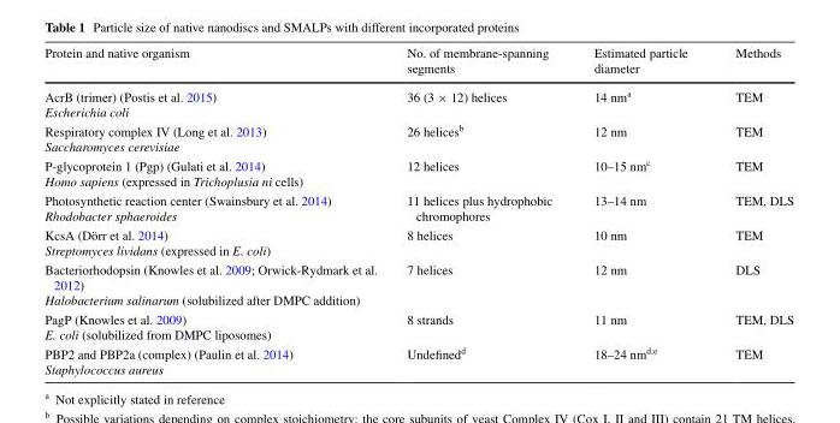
<table><thead><tr><td>Protein and native organism</td><td>No. of membrane-spanning segments</td><td>Estimated particle diameter</td><td>Methods</td></tr></thead><tbody><tr><td>AcrB (trimer) (Postis et al. 2015) Escherichia coli</td><td>36 (3 × 12) helices</td><td>14 nm<sup>a</sup></td><td>TEM</td></tr><tr><td>Respiratory complex IV (Long et al. 2013) Saccharomyces cerevisiae</td><td>26 helices<sup>b</sup></td><td>12 nm</td><td>TEM</td></tr><tr><td>P-glycoprotein 1 (Pgp) (Gulati et al. 2014) Homo sapiens (expressed in Trichoplusia ni cells)</td><td>12 helices</td><td>10–15 nm<sup>c</sup></td><td>TEM</td></tr><tr><td>Photosynthetic reaction center (Swainsbury et al. 2014) Rhodobacter sphaeroides</td><td>11 helices plus hydrophobic chromophores</td><td>13–14 nm</td><td>TEM, DLS</td></tr><tr><td>KcsA (Dörr et al. 2014) Streptomyces lividans (expressed in E. coli)</td><td>8 helices</td><td>10 nm</td><td>TEM</td></tr><tr><td>Bacteriorhodopsin (Knowles et al. 2009; Orwick-Rydmark et al. 2012) Halobacterium salinarum (solubilized after DMPC addition)</td><td>7 helices</td><td>12 nm</td><td>DLS</td></tr><tr><td>PagP (Knowles et al. 2009) E. coli (solubilized from DMPC liposomes)</td><td>8 strands</td><td>11 nm</td><td>TEM, DLS</td></tr><tr><td>PBP2 and PBP2a (complex) (Paulin et al. 2014) Staphylococcus aureus</td><td>Undefined<sup>d</sup></td><td>18–24 nm<sup>d,e</sup></td><td>TEM</td></tr></tbody></table>